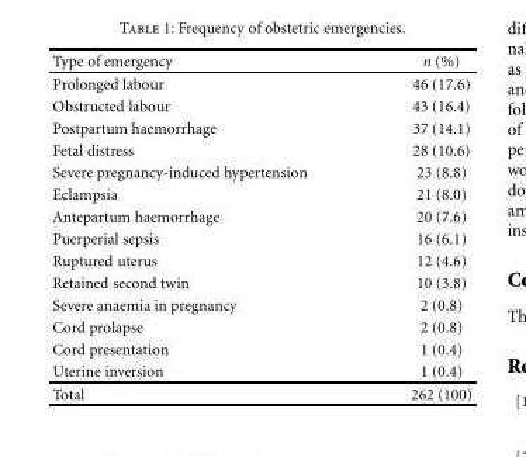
<table><thead><tr><td>Type of emergency</td><td>n (%)</td></tr></thead><tbody><tr><td>Prolonged labour</td><td>46 (17.6)</td></tr><tr><td>Obstructed labour</td><td>43 (16.4)</td></tr><tr><td>Postpartum haemorrhage</td><td>37 (14.1)</td></tr><tr><td>Fetal distress</td><td>28 (10.6)</td></tr><tr><td>Severe pregnancy-induced hypertension</td><td>23 (8.8)</td></tr><tr><td>Eclampsia</td><td>21 (8.0)</td></tr><tr><td>Antepartum haemorrhage</td><td>20 (7.6)</td></tr><tr><td>Puerperial sepsis</td><td>16 (6.1)</td></tr><tr><td>Ruptured uterus</td><td>12 (4.6)</td></tr><tr><td>Retained second twin</td><td>10 (3.8)</td></tr><tr><td>Severe anaemia in pregnancy</td><td>2 (0.8)</td></tr><tr><td>Cord prolapse</td><td>2 (0.8)</td></tr><tr><td>Cord presentation</td><td>1 (0.4)</td></tr><tr><td>Uterine inversion</td><td>1 (0.4)</td></tr><tr><td>Total</td><td>262 (100)</td></tr></tbody></table>